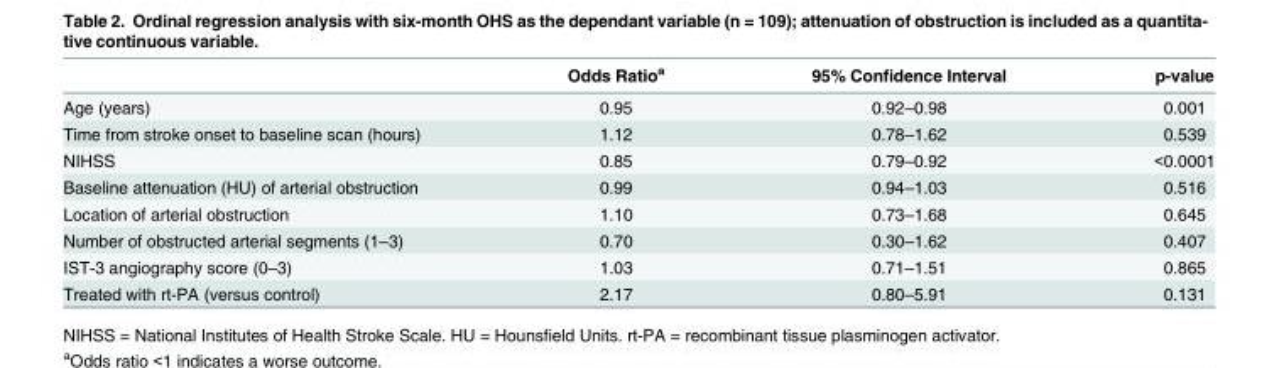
<table><thead><tr><td></td><td>Odds Ratio<sup>a</sup></td><td>95% Confidence Interval</td><td>p-value</td></tr></thead><tbody><tr><td>Age (years)</td><td>0.95</td><td>0.92–0.98</td><td>0.001</td></tr><tr><td>Time from stroke onset to baseline scan (hours)</td><td>1.12</td><td>0.78–1.62</td><td>0.539</td></tr><tr><td>NIHSS</td><td>0.85</td><td>0.79–0.92</td><td>&lt;0.0001</td></tr><tr><td>Baseline attenuation (HU) of arterial obstruction</td><td>0.99</td><td>0.94–1.03</td><td>0.516</td></tr><tr><td>Location of arterial obstruction</td><td>1.10</td><td>0.73–1.68</td><td>0.645</td></tr><tr><td>Number of obstructed arterial segments (1–3)</td><td>0.70</td><td>0.30–1.62</td><td>0.407</td></tr><tr><td>IST-3 angiography score (0–3)</td><td>1.03</td><td>0.71–1.51</td><td>0.865</td></tr><tr><td>Treated with rt-PA (versus control)</td><td>2.17</td><td>0.80–5.91</td><td>0.131</td></tr></tbody></table>